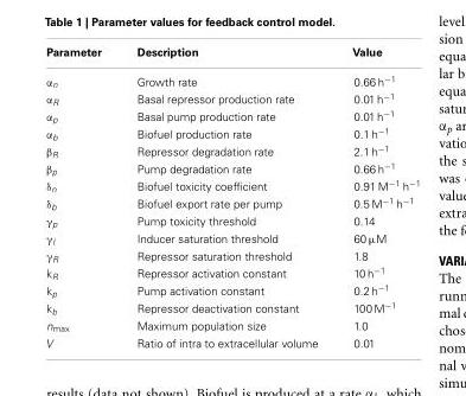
<table><thead><tr><td>Parameter</td><td>Description</td><td>Value</td></tr></thead><tbody><tr><td>α<sub>n</sub></td><td>Growth rate</td><td>0.66 h<sup>−1</sup></td></tr><tr><td>α<sub>R</sub></td><td>Basal repressor production rate</td><td>0.01 h<sup>−1</sup></td></tr><tr><td>α<sub>p</sub></td><td>Basal pump production rate</td><td>0.01 h<sup>−1</sup></td></tr><tr><td>α<sub>b</sub></td><td>Biofuel production rate</td><td>0.1 h<sup>−1</sup></td></tr><tr><td>β<sub>R</sub></td><td>Repressor degradation rate</td><td>2.1 h<sup>−1</sup></td></tr><tr><td>β<sub>p</sub></td><td>Pump degradation rate</td><td>0.66 h<sup>−1</sup></td></tr><tr><td>δ<sub>n</sub></td><td>Biofuel toxicity coefficient</td><td>0.91 M<sup>−1</sup> h<sup>−1</sup></td></tr><tr><td>δ<sub>b</sub></td><td>Biofuel export rate per pump</td><td>0.5 M<sup>−1</sup> h<sup>−1</sup></td></tr><tr><td>γ<sub>p</sub></td><td>Pump toxicity threshold</td><td>0.14</td></tr><tr><td>γ<sub>I</sub></td><td>Inducer saturation threshold</td><td>60 µM</td></tr><tr><td>γ<sub>R</sub></td><td>Repressor saturation threshold</td><td>1.8</td></tr><tr><td>k<sub>R</sub></td><td>Repressor activation constant</td><td>10 h<sup>−1</sup></td></tr><tr><td>k<sub>p</sub></td><td>Pump activation constant</td><td>0.2 h<sup>−1</sup></td></tr><tr><td>k<sub>b</sub></td><td>Repressor deactivation constant</td><td>100 M<sup>−1</sup></td></tr><tr><td>n<sub>max</sub></td><td>Maximum population size</td><td>1.0</td></tr><tr><td>V</td><td>Ratio of intra to extracellular volume</td><td>0.01</td></tr></tbody></table>